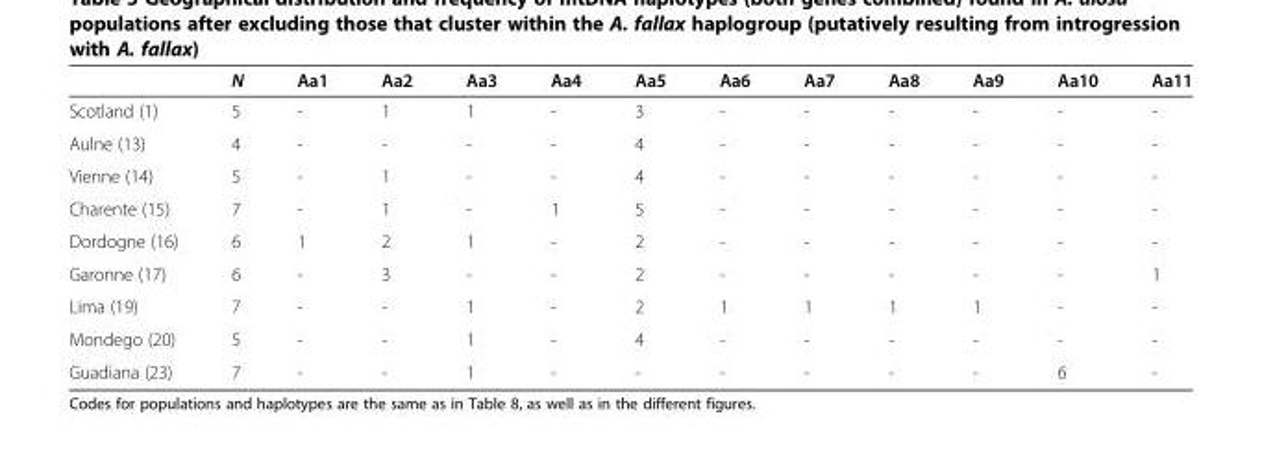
<table><thead><tr><td></td><td>N</td><td>Aa1</td><td>Aa2</td><td>Aa3</td><td>Aa4</td><td>Aa5</td><td>Aa6</td><td>Aa7</td><td>Aa8</td><td>Aa9</td><td>Aa10</td><td>Aa11</td></tr></thead><tbody><tr><td>Scotland (1)</td><td>5</td><td>-</td><td>1</td><td>1</td><td>-</td><td>3</td><td>-</td><td>-</td><td>-</td><td>-</td><td>-</td><td>-</td></tr><tr><td>Aulne (13)</td><td>4</td><td>-</td><td>-</td><td>-</td><td>-</td><td>4</td><td>-</td><td>-</td><td>-</td><td>-</td><td>-</td><td>-</td></tr><tr><td>Vienne (14)</td><td>5</td><td>-</td><td>1</td><td>-</td><td>-</td><td>4</td><td>-</td><td>-</td><td>-</td><td>-</td><td>-</td><td>-</td></tr><tr><td>Charente (15)</td><td>7</td><td>-</td><td>1</td><td>-</td><td>1</td><td>5</td><td>-</td><td>-</td><td>-</td><td>-</td><td>-</td><td>-</td></tr><tr><td>Dordogne (16)</td><td>6</td><td>1</td><td>2</td><td>1</td><td>-</td><td>2</td><td>-</td><td>-</td><td>-</td><td>-</td><td>-</td><td>-</td></tr><tr><td>Garonne (17)</td><td>6</td><td>-</td><td>3</td><td>-</td><td>-</td><td>2</td><td>-</td><td>-</td><td>-</td><td>-</td><td>-</td><td>1</td></tr><tr><td>Lima (19)</td><td>7</td><td>-</td><td>-</td><td>1</td><td>-</td><td>2</td><td>1</td><td>1</td><td>1</td><td>1</td><td>-</td><td>-</td></tr><tr><td>Mondego (20)</td><td>5</td><td>-</td><td>-</td><td>1</td><td>-</td><td>4</td><td>-</td><td>-</td><td>-</td><td>-</td><td>-</td><td>-</td></tr><tr><td>Guadiana (23)</td><td>7</td><td>-</td><td>-</td><td>1</td><td>-</td><td>-</td><td>-</td><td>-</td><td>-</td><td>-</td><td>6</td><td>-</td></tr></tbody></table>